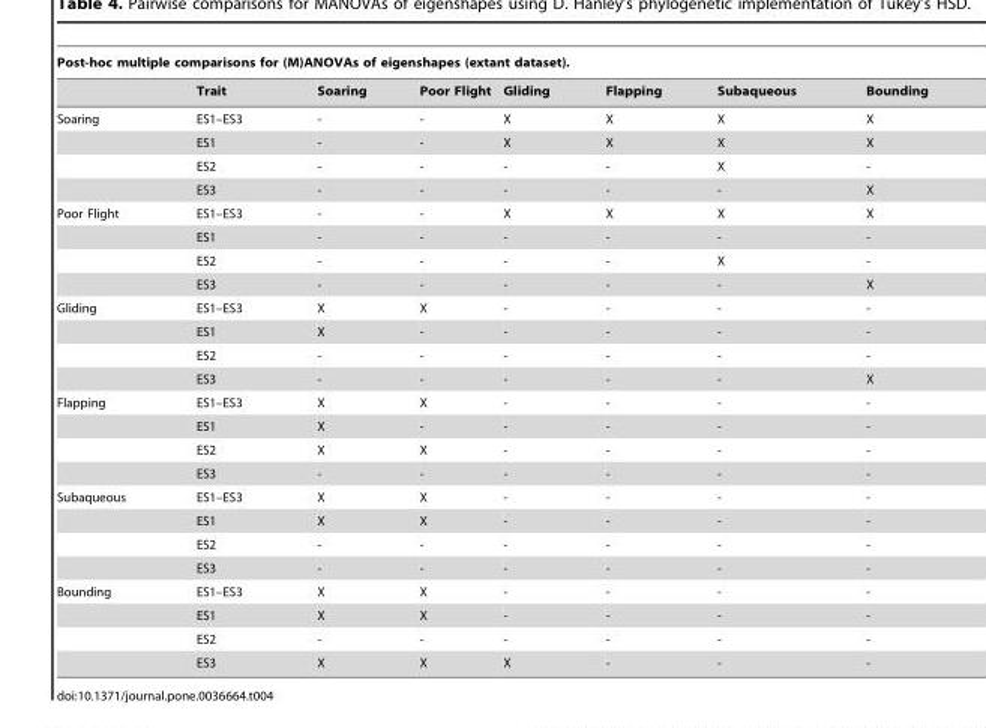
<table><thead><tr><td colspan="8">Post-hoc multiple comparisons for (M)ANOVAs of eigenshapes (extant dataset).</td></tr><tr><td></td><td>Trait</td><td>Soaring</td><td>Poor Flight</td><td>Gliding</td><td>Flapping</td><td>Subaqueous</td><td>Bounding</td></tr></thead><tbody><tr><td rowspan="4">Soaring</td><td>ES1–ES3</td><td>-</td><td>-</td><td>X</td><td>X</td><td>X</td><td>X</td></tr><tr><td>ES1</td><td>-</td><td>-</td><td>X</td><td>X</td><td>X</td><td>X</td></tr><tr><td>ES2</td><td>-</td><td>-</td><td>-</td><td>-</td><td>X</td><td>-</td></tr><tr><td>ES3</td><td>-</td><td>-</td><td>-</td><td>-</td><td>-</td><td>X</td></tr><tr><td rowspan="4">Poor Flight</td><td>ES1–ES3</td><td>-</td><td>-</td><td>X</td><td>X</td><td>X</td><td>X</td></tr><tr><td>ES1</td><td>-</td><td>-</td><td>-</td><td>-</td><td>-</td><td>-</td></tr><tr><td>ES2</td><td>-</td><td>-</td><td>-</td><td>-</td><td>X</td><td>-</td></tr><tr><td>ES3</td><td>-</td><td>-</td><td>-</td><td>-</td><td>-</td><td>X</td></tr><tr><td rowspan="4">Gliding</td><td>ES1–ES3</td><td>X</td><td>X</td><td>-</td><td>-</td><td>-</td><td>-</td></tr><tr><td>ES1</td><td>X</td><td>-</td><td>-</td><td>-</td><td>-</td><td>-</td></tr><tr><td>ES2</td><td>-</td><td>-</td><td>-</td><td>-</td><td>-</td><td>-</td></tr><tr><td>ES3</td><td>-</td><td>-</td><td>-</td><td>-</td><td>-</td><td>X</td></tr><tr><td rowspan="4">Flapping</td><td>ES1–ES3</td><td>X</td><td>X</td><td>-</td><td>-</td><td>-</td><td>-</td></tr><tr><td>ES1</td><td>X</td><td>-</td><td>-</td><td>-</td><td>-</td><td>-</td></tr><tr><td>ES2</td><td>X</td><td>X</td><td>-</td><td>-</td><td>-</td><td>-</td></tr><tr><td>ES3</td><td>-</td><td>-</td><td>-</td><td>-</td><td>-</td><td>-</td></tr><tr><td rowspan="4">Subaqueous</td><td>ES1–ES3</td><td>X</td><td>X</td><td>-</td><td>-</td><td>-</td><td>-</td></tr><tr><td>ES1</td><td>X</td><td>X</td><td>-</td><td>-</td><td>-</td><td>-</td></tr><tr><td>ES2</td><td>-</td><td>-</td><td>-</td><td>-</td><td>-</td><td>-</td></tr><tr><td>ES3</td><td>-</td><td>-</td><td>-</td><td>-</td><td>-</td><td>-</td></tr><tr><td rowspan="4">Bounding</td><td>ES1–ES3</td><td>X</td><td>X</td><td>-</td><td>-</td><td>-</td><td>-</td></tr><tr><td>ES1</td><td>X</td><td>X</td><td>-</td><td>-</td><td>-</td><td>-</td></tr><tr><td>ES2</td><td>-</td><td>-</td><td>-</td><td>-</td><td>-</td><td>-</td></tr><tr><td>ES3</td><td>X</td><td>X</td><td>X</td><td>-</td><td>-</td><td>-</td></tr></tbody></table>